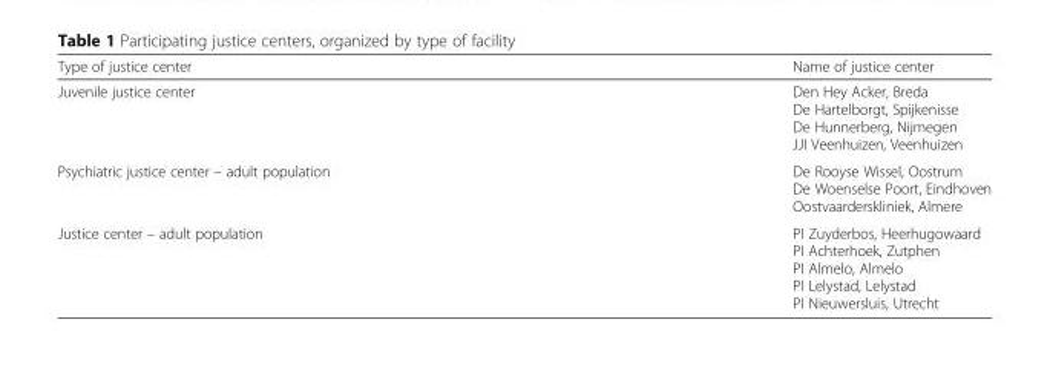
<table><thead><tr><td>Type of justice center</td><td>Name of justice center</td></tr></thead><tbody><tr><td>Juvenile justice center</td><td>Den Hey Acker, Breda De Hartelborgt, Spijkenisse De Hunnerberg, Nijmegen JJI Veenhuizen, Veenhuizen</td></tr><tr><td>Psychiatric justice center – adult population</td><td>De Rooyse Wissel, Oostrum De Woenselse Poort, Eindhoven Oostvaarderskliniek, Almere</td></tr><tr><td>Justice center – adult population</td><td>PI Zuyderbos, Heerhugowaard PI Achterhoek, Zutphen PI Almelo, Almelo PI Lelystad, Lelystad PI Nieuwersluis, Utrecht</td></tr></tbody></table>